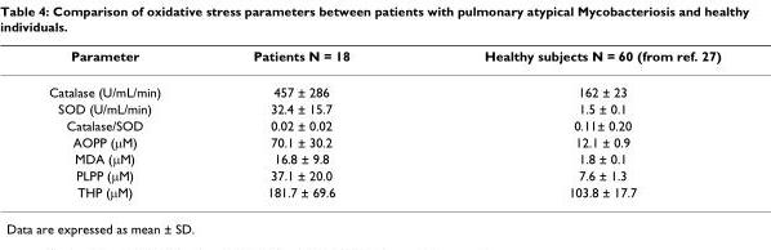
<table><thead><tr><td>Parameter</td><td>Patients N = 18</td><td>Healthy subjects N = 60 (from ref. 27)</td></tr></thead><tbody><tr><td>Catalase (U/mL/min)</td><td>457 ± 286</td><td>162 ± 23</td></tr><tr><td>SOD (U/mL/min)</td><td>32.4 ± 15.7</td><td>1.5 ± 0.1</td></tr><tr><td>Catalase/SOD</td><td>0.02 ± 0.02</td><td>0.11± 0.20</td></tr><tr><td>AOPP (µM)</td><td>70.1 ± 30.2</td><td>12.1 ± 0.9</td></tr><tr><td>MDA (µM)</td><td>16.8 ± 9.8</td><td>1.8 ± 0.1</td></tr><tr><td>PLPP (µM)</td><td>37.1 ± 20.0</td><td>7.6 ± 1.3</td></tr><tr><td>THP (µM)</td><td>181.7 ± 69.6</td><td>103.8 ± 17.7</td></tr></tbody></table>